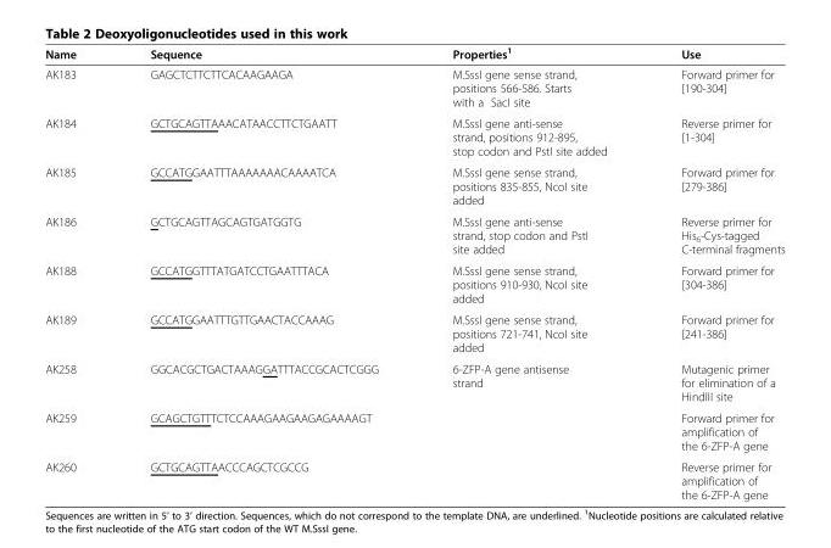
<table><thead><tr><td>Name</td><td>Sequence</td><td>Properties<sup>1</sup></td><td>Use</td></tr></thead><tbody><tr><td>AK183</td><td>GAGCTCTTCTTCACAAGAAGA</td><td>M.SssI gene sense strand, positions 566-586. Starts with a SacI site</td><td>Forward primer for [190-304]</td></tr><tr><td>AK184</td><td>GCTGCAGTTAAACATAACCTTCTGAATT</td><td>M.SssI gene anti-sense strand, positions 912-895, stop codon and PstI site added</td><td>Reverse primer for [1-304]</td></tr><tr><td>AK185</td><td>GCCATGGAATTTAAAAAAACAAAATCA</td><td>M.SssI gene sense strand, positions 835-855, NcoI site added</td><td>Forward primer for [279-386]</td></tr><tr><td>AK186</td><td>GCTGCAGTTAGCAGTGATGGTG</td><td>M.SssI gene anti-sense strand, stop codon and PstI site added</td><td>Reverse primer for His<sub>6</sub>-Cys-tagged C-terminal fragments</td></tr><tr><td>AK188</td><td>GCCATGGTTTATGATCCTGAATTTACA</td><td>M.SssI gene sense strand, positions 910-930, NcoI site added</td><td>Forward primer for [304-386]</td></tr><tr><td>AK189</td><td>GCCATGGAATTTGTTGAACTACCAAAG</td><td>M.SssI gene sense strand, positions 721-741, NcoI site added</td><td>Forward primer for [241-386]</td></tr><tr><td>AK258</td><td>GGCACGCTGACTAAAGGATTTACCGCACTCGGG</td><td>6-ZFP-A gene antisense strand</td><td>Mutagenic primer for elimination of a HindIII site</td></tr><tr><td>AK259</td><td>GCAGCTGTTTCTCCAAAGAAGAAGAGAAAAGT</td><td></td><td>Forward primer for amplification of the 6-ZFP-A gene</td></tr><tr><td>AK260</td><td>GCTGCAGTTAACCCAGCTCGCCG</td><td></td><td>Reverse primer for amplification of the 6-ZFP-A gene</td></tr></tbody></table>